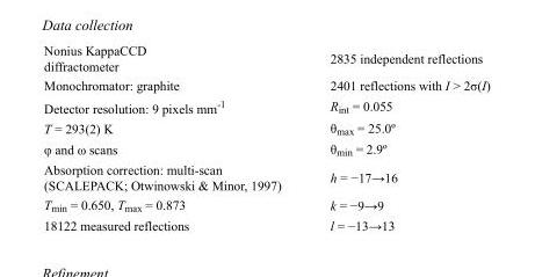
<table><tbody><tr><td>Nonius KappaCCD diffractometer</td><td>2835 independent reflections</td></tr><tr><td>Monochromator: graphite</td><td>2401 reflections with I &gt; 2σ(I)</td></tr><tr><td>Detector resolution: 9 pixels mm<sup>-1</sup></td><td>R<sub>int</sub> = 0.055</td></tr><tr><td>T = 293(2) K</td><td>θ<sub>max</sub> = 25.0º</td></tr><tr><td>φ and ω scans</td><td>θ<sub>min</sub> = 2.9º</td></tr><tr><td>Absorption correction: multi-scan (SCALEPACK; Otwinowski &amp; Minor, 1997)</td><td>h = −17→16</td></tr><tr><td>T<sub>min</sub> = 0.650, T<sub>max</sub> = 0.873</td><td>k = −9→9</td></tr><tr><td>18122 measured reflections</td><td>l = −13→13</td></tr></tbody></table>